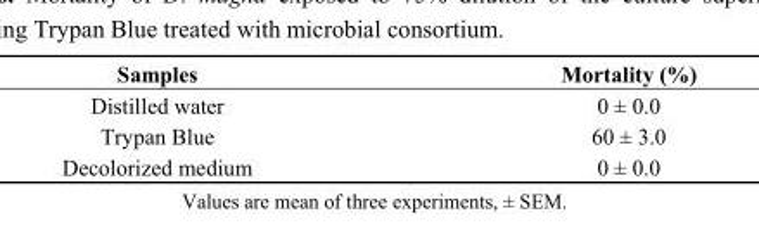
<table><thead><tr><td>Samples</td><td>Mortality (%)</td></tr></thead><tbody><tr><td>Distilled water</td><td>0 ± 0.0</td></tr><tr><td>Trypan Blue</td><td>60 ± 3.0</td></tr><tr><td>Decolorized medium</td><td>0 ± 0.0</td></tr></tbody></table>